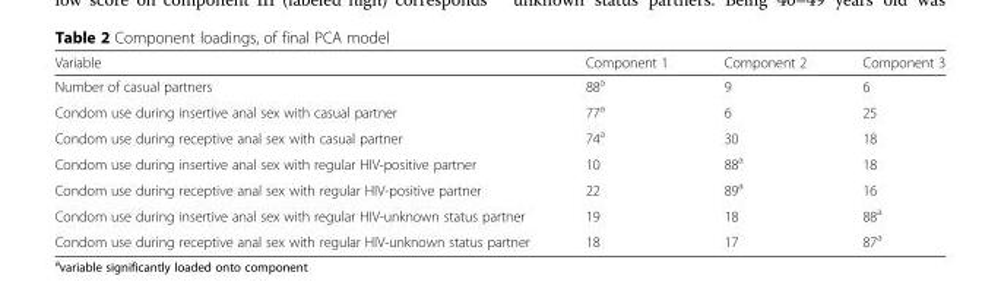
<table><thead><tr><td>Variable</td><td>Component 1</td><td>Component 2</td><td>Component 3</td></tr></thead><tbody><tr><td>Number of casual partners</td><td>88<sup>a</sup></td><td>9</td><td>6</td></tr><tr><td>Condom use during insertive anal sex with casual partner</td><td>77<sup>a</sup></td><td>6</td><td>25</td></tr><tr><td>Condom use during receptive anal sex with casual partner</td><td>74<sup>a</sup></td><td>30</td><td>18</td></tr><tr><td>Condom use during insertive anal sex with regular HIV-positive partner</td><td>10</td><td>88<sup>a</sup></td><td>18</td></tr><tr><td>Condom use during receptive anal sex with regular HIV-positive partner</td><td>22</td><td>89<sup>a</sup></td><td>16</td></tr><tr><td>Condom use during insertive anal sex with regular HIV-unknown status partner</td><td>19</td><td>18</td><td>88<sup>a</sup></td></tr><tr><td>Condom use during receptive anal sex with regular HIV-unknown status partner</td><td>18</td><td>17</td><td>87<sup>a</sup></td></tr></tbody></table>